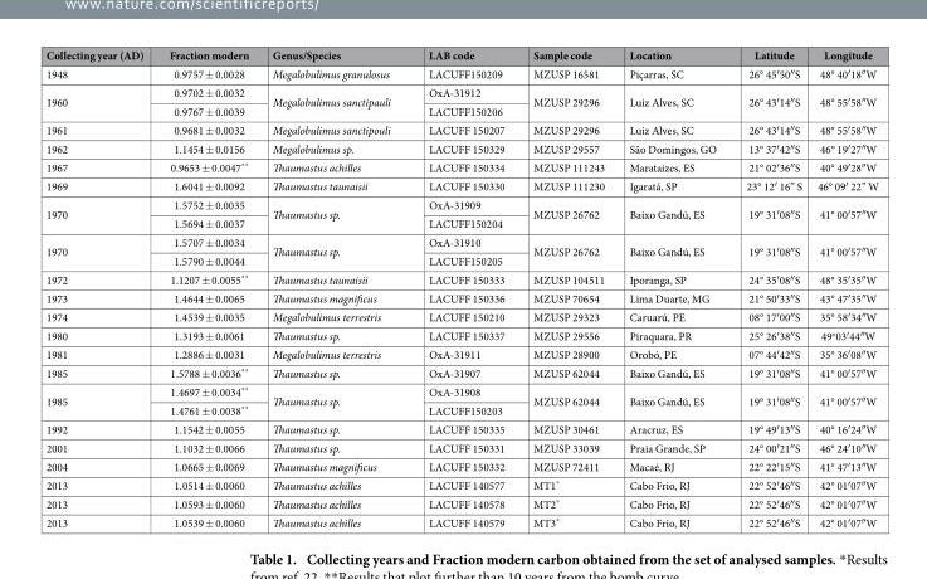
<table><thead><tr><td>Collecting year (AD)</td><td>Fraction modern</td><td>Genus/Species</td><td>LAB code</td><td>Sample code</td><td>Location</td><td>Latitude</td><td>Longitude</td></tr></thead><tbody><tr><td>1948</td><td>0.9757 ± 0.0028</td><td>Megalobulimus granulosus</td><td>LACUFF150209</td><td>MZUSP 16581</td><td>Piçarras, SC</td><td>26° 45′ 50″ S</td><td>48° 40′ 18″ W</td></tr><tr><td rowspan="2">1960</td><td>0.9702 ± 0.0032</td><td rowspan="2">Megalobulimus sanctipauli</td><td>OxA-31912</td><td rowspan="2">MZUSP 29296</td><td rowspan="2">Luiz Alves, SC</td><td rowspan="2">26° 43′ 14″ S</td><td rowspan="2">48° 55′ 58″ W</td></tr><tr><td>0.9767 ± 0.0039</td><td>LACUFF150206</td></tr><tr><td>1961</td><td>0.9681 ± 0.0032</td><td>Megalobulimus sanctipouli</td><td>LACUFF 150207</td><td>MZUSP 29296</td><td>Luiz Alves, SC</td><td>26° 43′ 14″ S</td><td>48° 55′ 58″ W</td></tr><tr><td>1962</td><td>1.1454 ± 0.0156</td><td>Megalobulimus sp.</td><td>LACUFF 150329</td><td>MZUSP 29557</td><td>São Domingos, GO</td><td>13° 37′ 42″ S</td><td>46° 19′ 27″ W</td></tr><tr><td>1967</td><td>0.9653 ± 0.0047**</td><td>Thaumastus achilles</td><td>LACUFF 150334</td><td>MZUSP 111243</td><td>Marataizes, ES</td><td>21° 02′ 36″ S</td><td>40° 49′ 28″ W</td></tr><tr><td>1969</td><td>1.6041 ± 0.0092</td><td>Thaumastus taunaisii</td><td>LACUFF 150330</td><td>MZUSP 111230</td><td>Igaratá, SP</td><td>23° 12′ 16” S</td><td>46° 09′ 22” W</td></tr><tr><td rowspan="2">1970</td><td>1.5752 ± 0.0035</td><td rowspan="2">Thaumastus sp.</td><td>OxA-31909</td><td rowspan="2">MZUSP 26762</td><td rowspan="2">Baixo Gandú, ES</td><td rowspan="2">19° 31′ 08″ S</td><td rowspan="2">41° 00′ 57″ W</td></tr><tr><td>1.5694 ± 0.0037</td><td>LACUFF150204</td></tr><tr><td rowspan="2">1970</td><td>1.5707 ± 0.0034</td><td rowspan="2">Thaumastus sp.</td><td>OxA-31910</td><td rowspan="2">MZUSP 26762</td><td rowspan="2">Baixo Gandú, ES</td><td rowspan="2">19° 31′ 08″ S</td><td rowspan="2">41° 00′ 57″ W</td></tr><tr><td>1.5790 ± 0.0044</td><td>LACUFF150205</td></tr><tr><td>1972</td><td>1.1207 ± 0.0055**</td><td>Thaumastus taunaisii</td><td>LACUFF 150333</td><td>MZUSP 104511</td><td>Iporanga, SP</td><td>24° 35′ 08″ S</td><td>48° 35′ 35″ W</td></tr><tr><td>1973</td><td>1.4644 ± 0.0065</td><td>Thaumastus magnificus</td><td>LACUFF 150336</td><td>MZUSP 70654</td><td>Lima Duarte, MG</td><td>21° 50′ 33″ S</td><td>43° 47′ 35″ W</td></tr><tr><td>1974</td><td>1.4539 ± 0.0035</td><td>Megalobulimus terrestris</td><td>LACUFF 150210</td><td>MZUSP 29323</td><td>Caruarú, PE</td><td>08° 17′ 00″ S</td><td>35° 58′ 34″ W</td></tr><tr><td>1980</td><td>1.3193 ± 0.0061</td><td>Thaumastus sp.</td><td>LACUFF 150337</td><td>MZUSP 29556</td><td>Piraquara, PR</td><td>25° 26′ 38″ S</td><td>49<sup>o</sup>03′ 44″ W</td></tr><tr><td>1981</td><td>1.2886 ± 0.0031</td><td>Megalobulimus terrestris</td><td>OxA-31911</td><td>MZUSP 28900</td><td>Orobó, PE</td><td>07° 44′ 42″ S</td><td>35° 36′ 08″ W</td></tr><tr><td>1985</td><td>1.5788 ± 0.0036**</td><td>Thaumastus sp.</td><td>OxA-31907</td><td>MZUSP 62044</td><td>Baixo Gandú, ES</td><td>19° 31′ 08″ S</td><td>41° 00′ 57″ W</td></tr><tr><td rowspan="2">1985</td><td>1.4697 ± 0.0034**</td><td rowspan="2">Thaumastus sp.</td><td>OxA-31908</td><td rowspan="2">MZUSP 62044</td><td rowspan="2">Baixo Gandú, ES</td><td rowspan="2">19° 31′ 08″ S</td><td rowspan="2">41° 00′ 57″ W</td></tr><tr><td>1.4761 ± 0.0038**</td><td>LACUFF150203</td></tr><tr><td>1992</td><td>1.1542 ± 0.0055</td><td>Thaumastus sp.</td><td>LACUFF 150335</td><td>MZUSP 30461</td><td>Aracruz, ES</td><td>19° 49′ 13″ S</td><td>40° 16′ 24″ W</td></tr><tr><td>2001</td><td>1.1032 ± 0.0066</td><td>Thaumastus sp.</td><td>LACUFF 150331</td><td>MZUSP 33039</td><td>Praia Grande, SP</td><td>24° 00′ 21″ S</td><td>46° 24′ 10″ W</td></tr><tr><td>2004</td><td>1.0665 ± 0.0069</td><td>Thaumastus magnificus</td><td>LACUFF 150332</td><td>MZUSP 72411</td><td>Macaé, RJ</td><td>22° 22′ 15″ S</td><td>41° 47′ 13″ W</td></tr><tr><td>2013</td><td>1.0514 ± 0.0060</td><td>Thaumastus achilles</td><td>LACUFF 140577</td><td>MT1*</td><td>Cabo Frio, RJ</td><td>22° 52′ 46″ S</td><td>42° 01′ 07″ W</td></tr><tr><td>2013</td><td>1.0593 ± 0.0060</td><td>Thaumastus achilles</td><td>LACUFF 140578</td><td>MT2*</td><td>Cabo Frio, RJ</td><td>22° 52′ 46″ S</td><td>42° 01′ 07″ W</td></tr><tr><td>2013</td><td>1.0539 ± 0.0060</td><td>Thaumastus achilles</td><td>LACUFF 140579</td><td>MT3*</td><td>Cabo Frio, RJ</td><td>22° 52′ 46″ S</td><td>42° 01′ 07″ W</td></tr></tbody></table>